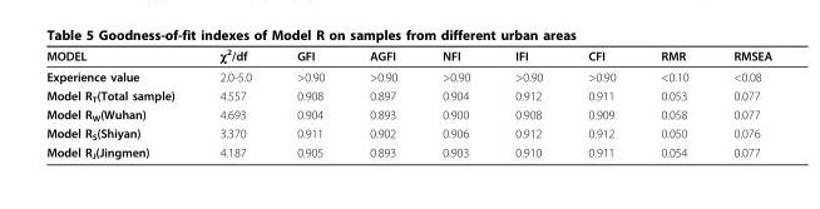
<table><thead><tr><td>MODEL</td><td>χ<sup>2</sup>/df</td><td>GFI</td><td>AGFI</td><td>NFI</td><td>IFI</td><td>CFI</td><td>RMR</td><td>RMSEA</td></tr></thead><tbody><tr><td>Experience value</td><td>2.0-5.0</td><td>&gt;0.90</td><td>&gt;0.90</td><td>&gt;0.90</td><td>&gt;0.90</td><td>&gt;0.90</td><td>&lt;0.10</td><td>&lt;0.08</td></tr><tr><td>Model R<sub>T</sub>(Total sample)</td><td>4.557</td><td>0.908</td><td>0.897</td><td>0.904</td><td>0.912</td><td>0.911</td><td>0.053</td><td>0.077</td></tr><tr><td>Model R<sub>W</sub>(Wuhan)</td><td>4.693</td><td>0.904</td><td>0.893</td><td>0.900</td><td>0.908</td><td>0.909</td><td>0.058</td><td>0.077</td></tr><tr><td>Model R<sub>S</sub>(Shiyan)</td><td>3.370</td><td>0.911</td><td>0.902</td><td>0.906</td><td>0.912</td><td>0.912</td><td>0.050</td><td>0.076</td></tr><tr><td>Model R<sub>J</sub>(Jingmen)</td><td>4.187</td><td>0.905</td><td>0.893</td><td>0.903</td><td>0.910</td><td>0.911</td><td>0.054</td><td>0.077</td></tr></tbody></table>